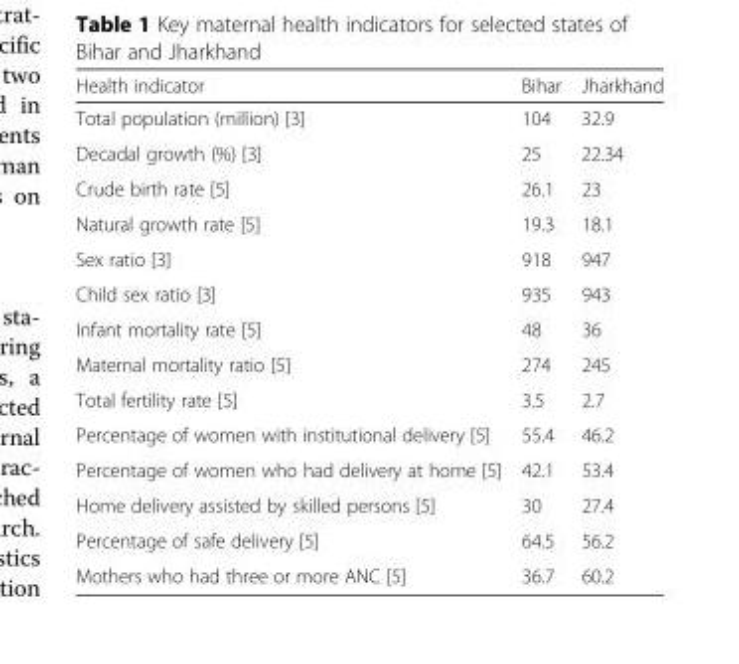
<table><thead><tr><td>Health indicator</td><td>Bihar</td><td>Jharkhand</td></tr></thead><tbody><tr><td>Total population (million) [3]</td><td>104</td><td>32.9</td></tr><tr><td>Decadal growth (%) [3]</td><td>25</td><td>22.34</td></tr><tr><td>Crude birth rate [5]</td><td>26.1</td><td>23</td></tr><tr><td>Natural growth rate [5]</td><td>19.3</td><td>18.1</td></tr><tr><td>Sex ratio [3]</td><td>918</td><td>947</td></tr><tr><td>Child sex ratio [3]</td><td>935</td><td>943</td></tr><tr><td>Infant mortality rate [5]</td><td>48</td><td>36</td></tr><tr><td>Maternal mortality ratio [5]</td><td>274</td><td>245</td></tr><tr><td>Total fertility rate [5]</td><td>3.5</td><td>2.7</td></tr><tr><td>Percentage of women with institutional delivery [5]</td><td>55.4</td><td>46.2</td></tr><tr><td>Percentage of women who had delivery at home [5]</td><td>42.1</td><td>53.4</td></tr><tr><td>Home delivery assisted by skilled persons [5]</td><td>30</td><td>27.4</td></tr><tr><td>Percentage of safe delivery [5]</td><td>64.5</td><td>56.2</td></tr><tr><td>Mothers who had three or more ANC [5]</td><td>36.7</td><td>60.2</td></tr></tbody></table>